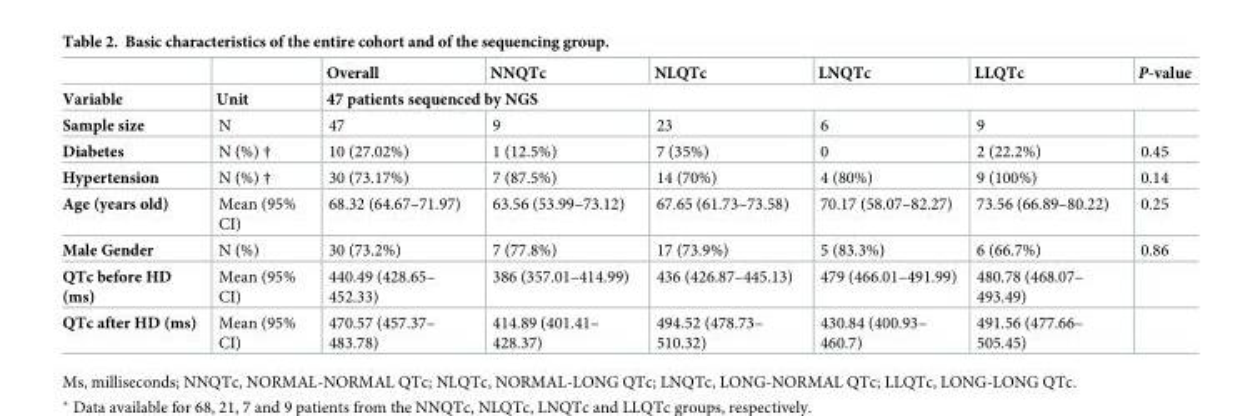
<table><thead><tr><td rowspan="2">Variable</td><td rowspan="2">Unit</td><td>Overall</td><td>NNQTc</td><td>NLQTc</td><td>LNQTc</td><td>LLQTc</td><td>P-value</td></tr><tr><td colspan="6">47 patients sequenced by NGS</td></tr></thead><tbody><tr><td>Sample size</td><td>N</td><td>47</td><td>9</td><td>23</td><td>6</td><td>9</td><td></td></tr><tr><td>Diabetes</td><td>N (%) †</td><td>10 (27.02%)</td><td>1 (12.5%)</td><td>7 (35%)</td><td>0</td><td>2 (22.2%)</td><td>0.45</td></tr><tr><td>Hypertension</td><td>N (%) †</td><td>30 (73.17%)</td><td>7 (87.5%)</td><td>14 (70%)</td><td>4 (80%)</td><td>9 (100%)</td><td>0.14</td></tr><tr><td>Age (years old)</td><td>Mean (95% CI)</td><td>68.32 (64.67–71.97)</td><td>63.56 (53.99–73.12)</td><td>67.65 (61.73–73.58)</td><td>70.17 (58.07–82.27)</td><td>73.56 (66.89–80.22)</td><td>0.25</td></tr><tr><td>Male Gender</td><td>N (%)</td><td>30 (73.2%)</td><td>7 (77.8%)</td><td>17 (73.9%)</td><td>5 (83.3%)</td><td>6 (66.7%)</td><td>0.86</td></tr><tr><td>QTc before HD (ms)</td><td>Mean (95% CI)</td><td>440.49 (428.65– 452.33)</td><td>386 (357.01–414.99)</td><td>436 (426.87–445.13)</td><td>479 (466.01–491.99)</td><td>480.78 (468.07– 493.49)</td><td></td></tr><tr><td>QTc after HD (ms)</td><td>Mean (95% CI)</td><td>470.57 (457.37– 483.78)</td><td>414.89 (401.41– 428.37)</td><td>494.52 (478.73– 510.32)</td><td>430.84 (400.93– 460.7)</td><td>491.56 (477.66– 505.45)</td><td></td></tr></tbody></table>